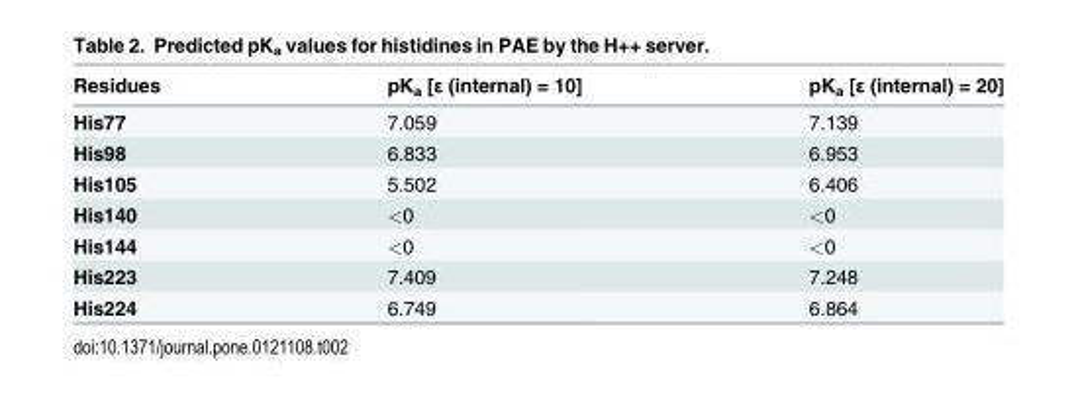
<table><thead><tr><td>Residues</td><td>pK<sub>a</sub> [ε (internal) = 10]</td><td>pK<sub>a</sub> [ε (internal) = 20]</td></tr></thead><tbody><tr><td>His77</td><td>7.059</td><td>7.139</td></tr><tr><td>His98</td><td>6.833</td><td>6.953</td></tr><tr><td>His105</td><td>5.502</td><td>6.406</td></tr><tr><td>His140</td><td>&lt;0</td><td>&lt;0</td></tr><tr><td>His144</td><td>&lt;0</td><td>&lt;0</td></tr><tr><td>His223</td><td>7.409</td><td>7.248</td></tr><tr><td>His224</td><td>6.749</td><td>6.864</td></tr></tbody></table>